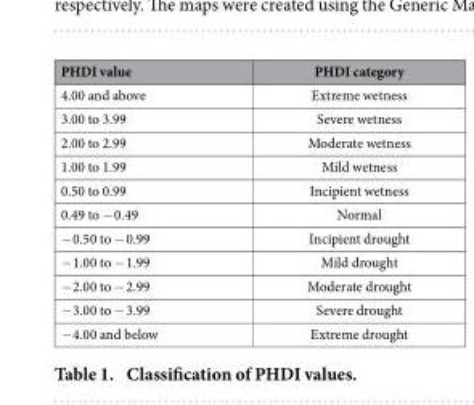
<table><thead><tr><td>PHDI value</td><td>PHDI category</td></tr></thead><tbody><tr><td>4.00 and above</td><td>Extreme wetness</td></tr><tr><td>3.00 to 3.99</td><td>Severe wetness</td></tr><tr><td>2.00 to 2.99</td><td>Moderate wetness</td></tr><tr><td>1.00 to 1.99</td><td>Mild wetness</td></tr><tr><td>0.50 to 0.99</td><td>Incipient wetness</td></tr><tr><td>0.49 to − 0.49</td><td>Normal</td></tr><tr><td>− 0.50 to − 0.99</td><td>Incipient drought</td></tr><tr><td>− 1.00 to − 1.99</td><td>Mild drought</td></tr><tr><td>− 2.00 to − 2.99</td><td>Moderate drought</td></tr><tr><td>− 3.00 to − 3.99</td><td>Severe drought</td></tr><tr><td>− 4.00 and below</td><td>Extreme drought</td></tr></tbody></table>